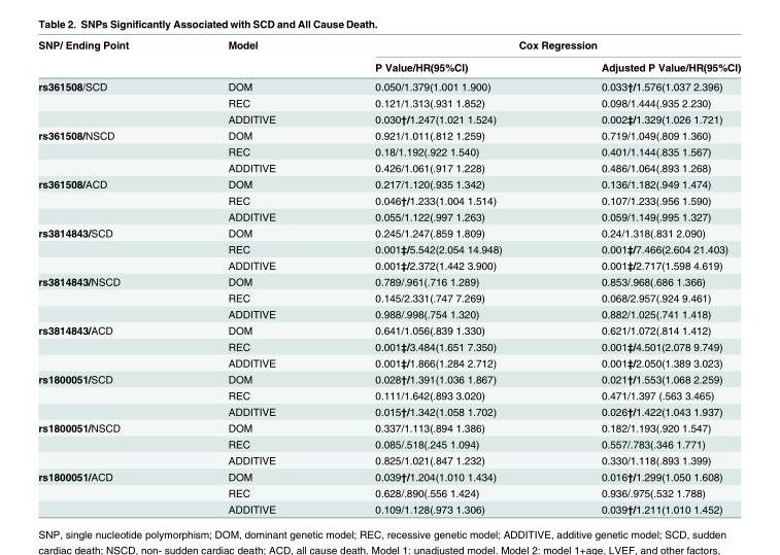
<table><thead><tr><td rowspan="2">SNP/ Ending Point</td><td rowspan="2">Model</td><td colspan="2">Cox Regression</td></tr><tr><td>P Value/HR(95%CI)</td><td>Adjusted P Value/HR(95%CI)</td></tr></thead><tbody><tr><td rowspan="3">rs361508/SCD</td><td>DOM</td><td>0.050/1.379(1.001 1.900)</td><td>0.033†/1.576(1.037 2.396)</td></tr><tr><td>REC</td><td>0.121/1.313(.931 1.852)</td><td>0.098/1.444(.935 2.230)</td></tr><tr><td>ADDITIVE</td><td>0.030†/1.247(1.021 1.524)</td><td>0.002‡/1.329(1.026 1.721)</td></tr><tr><td rowspan="3">rs361508/NSCD</td><td>DOM</td><td>0.921/1.011(.812 1.259)</td><td>0.719/1.049(.809 1.360)</td></tr><tr><td>REC</td><td>0.18/1.192(.922 1.540)</td><td>0.401/1.144(.835 1.567)</td></tr><tr><td>ADDITIVE</td><td>0.426/1.061(.917 1.228)</td><td>0.486/1.064(.893 1.268)</td></tr><tr><td rowspan="3">rs361508/ACD</td><td>DOM</td><td>0.217/1.120(.935 1.342)</td><td>0.136/1.182(.949 1.474)</td></tr><tr><td>REC</td><td>0.046†/1.233(1.004 1.514)</td><td>0.107/1.233(.956 1.590)</td></tr><tr><td>ADDITIVE</td><td>0.055/1.122(.997 1.263)</td><td>0.059/1.149(.995 1.327)</td></tr><tr><td rowspan="3">rs3814843/SCD</td><td>DOM</td><td>0.245/1.247(.859 1.809)</td><td>0.24/1.318(.831 2.090)</td></tr><tr><td>REC</td><td>0.001‡/5.542(2.054 14.948)</td><td>0.001‡/7.466(2.604 21.403)</td></tr><tr><td>ADDITIVE</td><td>0.001‡/2.372(1.442 3.900)</td><td>0.001‡/2.717(1.598 4.619)</td></tr><tr><td rowspan="3">rs3814843/NSCD</td><td>DOM</td><td>0.789/.961(.716 1.289)</td><td>0.853/.968(.686 1.366)</td></tr><tr><td>REC</td><td>0.145/2.331(.747 7.269)</td><td>0.068/2.957(.924 9.461)</td></tr><tr><td>ADDITIVE</td><td>0.988/.998(.754 1.320)</td><td>0.882/1.025(.741 1.418)</td></tr><tr><td rowspan="3">rs3814843/ACD</td><td>DOM</td><td>0.641/1.056(.839 1.330)</td><td>0.621/1.072(.814 1.412)</td></tr><tr><td>REC</td><td>0.001‡/3.484(1.651 7.350)</td><td>0.001‡/4.501(2.078 9.749)</td></tr><tr><td>ADDITIVE</td><td>0.001‡/1.866(1.284 2.712)</td><td>0.001‡/2.050(1.389 3.023)</td></tr><tr><td rowspan="3">rs1800051/SCD</td><td>DOM</td><td>0.028†/1.391(1.036 1.867)</td><td>0.021†/1.553(1.068 2.259)</td></tr><tr><td>REC</td><td>0.111/1.642(.893 3.020)</td><td>0.471/1.397 (.563 3.465)</td></tr><tr><td>ADDITIVE</td><td>0.015†/1.342(1.058 1.702)</td><td>0.026†/1.422(1.043 1.937)</td></tr><tr><td rowspan="3">rs1800051/NSCD</td><td>DOM</td><td>0.337/1.113(.894 1.386)</td><td>0.182/1.193(.920 1.547)</td></tr><tr><td>REC</td><td>0.085/.518(.245 1.094)</td><td>0.557/.783(.346 1.771)</td></tr><tr><td>ADDITIVE</td><td>0.825/1.021(.847 1.232)</td><td>0.330/1.118(.893 1.399)</td></tr><tr><td rowspan="3">rs1800051/ACD</td><td>DOM</td><td>0.039†/1.204(1.010 1.434)</td><td>0.016†/1.299(1.050 1.608)</td></tr><tr><td>REC</td><td>0.628/.890(.556 1.424)</td><td>0.936/.975(.532 1.788)</td></tr><tr><td>ADDITIVE</td><td>0.109/1.128(.973 1.306)</td><td>0.039†/1.211(1.010 1.452)</td></tr></tbody></table>